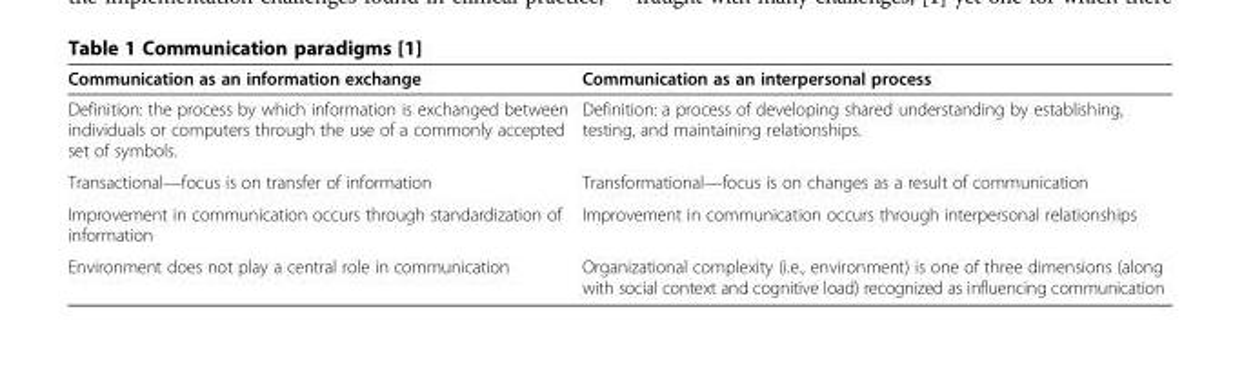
<table><thead><tr><td>Communication as an information exchange</td><td>Communication as an interpersonal process</td></tr></thead><tbody><tr><td>Definition: the process by which information is exchanged between individuals or computers through the use of a commonly accepted set of symbols.</td><td>Definition: a process of developing shared understanding by establishing, testing, and maintaining relationships.</td></tr><tr><td>Transactional—focus is on transfer of information</td><td>Transformational—focus is on changes as a result of communication</td></tr><tr><td>Improvement in communication occurs through standardization of information</td><td>Improvement in communication occurs through interpersonal relationships</td></tr><tr><td>Environment does not play a central role in communication</td><td>Organizational complexity (i.e., environment) is one of three dimensions (along with social context and cognitive load) recognized as influencing communication</td></tr></tbody></table>